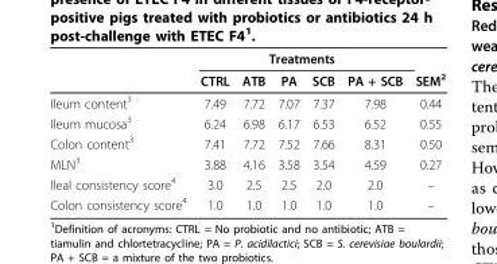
<table><thead><tr><td rowspan="2"></td><td colspan="5">Treatments</td><td rowspan="2">SEM<sup>2</sup></td></tr><tr><td>CTRL</td><td>ATB</td><td>PA</td><td>SCB</td><td>PA + SCB</td></tr></thead><tbody><tr><td>Ileum content<sup>3</sup></td><td>7.49</td><td>7.72</td><td>7.07</td><td>7.37</td><td>7.98</td><td>0.44</td></tr><tr><td>Ileum mucosa<sup>3</sup></td><td>6.24</td><td>6.98</td><td>6.17</td><td>6.53</td><td>6.52</td><td>0.55</td></tr><tr><td>Colon content<sup>3</sup></td><td>7.41</td><td>7.72</td><td>7.52</td><td>7.66</td><td>8.31</td><td>0.50</td></tr><tr><td>MLN<sup>3</sup></td><td>3.88</td><td>4.16</td><td>3.58</td><td>3.54</td><td>4.59</td><td>0.27</td></tr><tr><td>Ileal consistency score<sup>4</sup></td><td>3.0</td><td>2.5</td><td>2.5</td><td>2.0</td><td>2.0</td><td>–</td></tr><tr><td>Colon consistency score<sup>4</sup></td><td>1.0</td><td>1.0</td><td>1.0</td><td>1.0</td><td>1.0</td><td>–</td></tr></tbody></table>